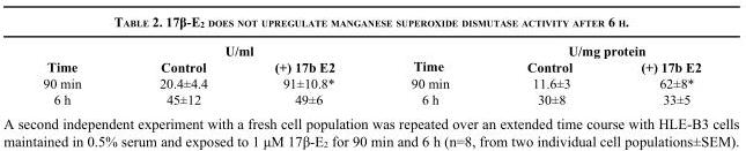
<table><tbody><tr><td rowspan="2">Time</td><td colspan="2">U/ml</td><td rowspan="2">Time</td><td colspan="2">U/mg protein</td></tr><tr><td>Control</td><td>(+) 17b E2</td><td>Control</td><td>(+) 17b E2</td></tr><tr><td>90 min</td><td>20.4±4.4</td><td>91±10.8*</td><td>90 min</td><td>11.6±3</td><td>62±8*</td></tr><tr><td>6 h</td><td>45±12</td><td>49±6</td><td>6 h</td><td>30±8</td><td>33±5</td></tr></tbody></table>